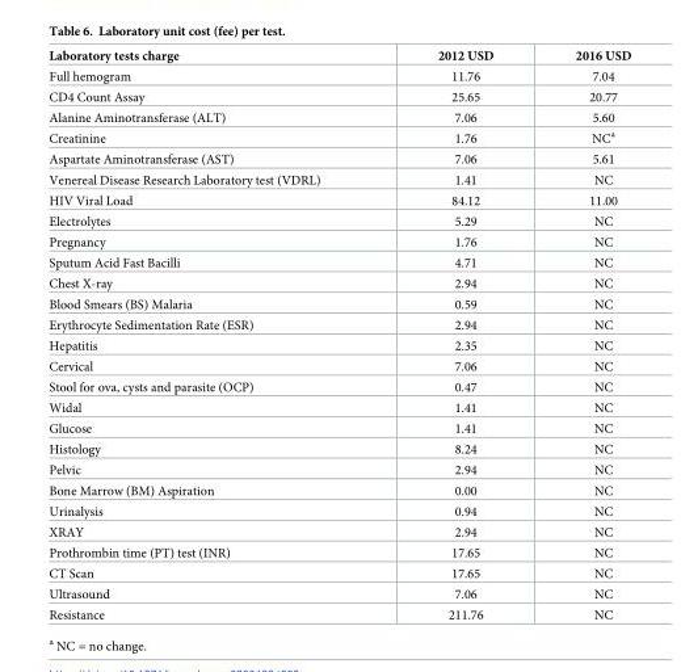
<table><thead><tr><td>Laboratory tests charge</td><td>2012 USD</td><td>2016 USD</td></tr></thead><tbody><tr><td>Full hemogram</td><td>11.76</td><td>7.04</td></tr><tr><td>CD4 Count Assay</td><td>25.65</td><td>20.77</td></tr><tr><td>Alanine Aminotransferase (ALT)</td><td>7.06</td><td>5.60</td></tr><tr><td>Creatinine</td><td>1.76</td><td>NC<sup>a</sup></td></tr><tr><td>Aspartate Aminotransferase (AST)</td><td>7.06</td><td>5.61</td></tr><tr><td>Venereal Disease Research Laboratory test (VDRL)</td><td>1.41</td><td>NC</td></tr><tr><td>HIV Viral Load</td><td>84.12</td><td>11.00</td></tr><tr><td>Electrolytes</td><td>5.29</td><td>NC</td></tr><tr><td>Pregnancy</td><td>1.76</td><td>NC</td></tr><tr><td>Sputum Acid Fast Bacilli</td><td>4.71</td><td>NC</td></tr><tr><td>Chest X-ray</td><td>2.94</td><td>NC</td></tr><tr><td>Blood Smears (BS) Malaria</td><td>0.59</td><td>NC</td></tr><tr><td>Erythrocyte Sedimentation Rate (ESR)</td><td>2.94</td><td>NC</td></tr><tr><td>Hepatitis</td><td>2.35</td><td>NC</td></tr><tr><td>Cervical</td><td>7.06</td><td>NC</td></tr><tr><td>Stool for ova, cysts and parasite (OCP)</td><td>0.47</td><td>NC</td></tr><tr><td>Widal</td><td>1.41</td><td>NC</td></tr><tr><td>Glucose</td><td>1.41</td><td>NC</td></tr><tr><td>Histology</td><td>8.24</td><td>NC</td></tr><tr><td>Pelvic</td><td>2.94</td><td>NC</td></tr><tr><td>Bone Marrow (BM) Aspiration</td><td>0.00</td><td>NC</td></tr><tr><td>Urinalysis</td><td>0.94</td><td>NC</td></tr><tr><td>XRAY</td><td>2.94</td><td>NC</td></tr><tr><td>Prothrombin time (PT) test (INR)</td><td>17.65</td><td>NC</td></tr><tr><td>CT Scan</td><td>17.65</td><td>NC</td></tr><tr><td>Ultrasound</td><td>7.06</td><td>NC</td></tr><tr><td>Resistance</td><td>211.76</td><td>NC</td></tr></tbody></table>